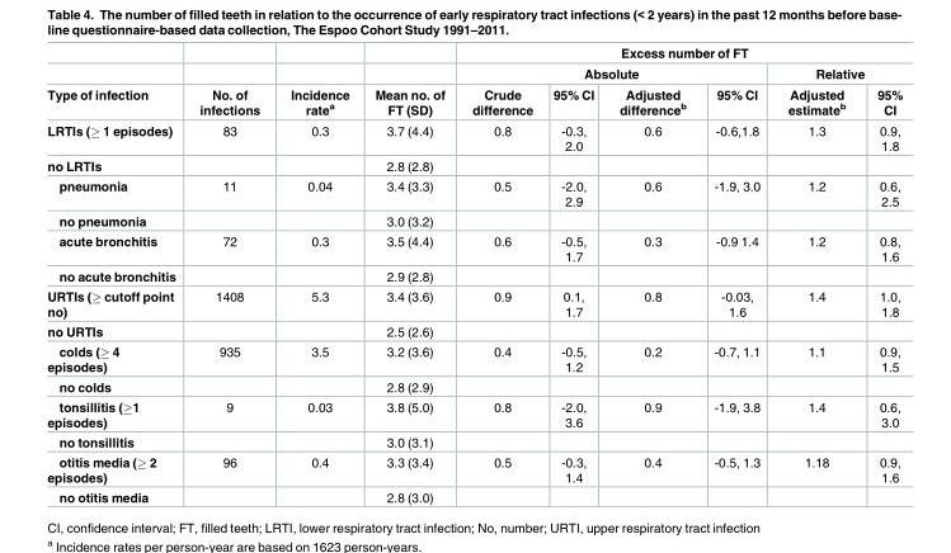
<table><thead><tr><td rowspan="3">Type of infection</td><td rowspan="3">No. of infections</td><td rowspan="3">Incidence rate<sup>a</sup></td><td rowspan="3">Mean no. of FT (SD)</td><td colspan="6">Excess number of FT</td></tr><tr><td colspan="4">Absolute</td><td colspan="2">Relative</td></tr><tr><td>Crude difference</td><td>95% CI</td><td>Adjusted difference<sup>b</sup></td><td>95% CI</td><td>Adjusted estimate<sup>b</sup></td><td>95% CI</td></tr></thead><tbody><tr><td>LRTIs (≥ 1 episodes)</td><td>83</td><td>0.3</td><td>3.7 (4.4)</td><td>0.8</td><td>-0.3, 2.0</td><td>0.6</td><td>-0.6,1.8</td><td>1.3</td><td>0.9, 1.8</td></tr><tr><td>no LRTIs</td><td></td><td></td><td>2.8 (2.8)</td><td></td><td></td><td></td><td></td><td></td><td></td></tr><tr><td>pneumonia</td><td>11</td><td>0.04</td><td>3.4 (3.3)</td><td>0.5</td><td>-2.0, 2.9</td><td>0.6</td><td>-1.9, 3.0</td><td>1.2</td><td>0.6, 2.5</td></tr><tr><td>no pneumonia</td><td></td><td></td><td>3.0 (3.2)</td><td></td><td></td><td></td><td></td><td></td><td></td></tr><tr><td>acute bronchitis</td><td>72</td><td>0.3</td><td>3.5 (4.4)</td><td>0.6</td><td>-0.5, 1.7</td><td>0.3</td><td>-0.9 1.4</td><td>1.2</td><td>0.8, 1.6</td></tr><tr><td>no acute bronchitis</td><td></td><td></td><td>2.9 (2.8)</td><td></td><td></td><td></td><td></td><td></td><td></td></tr><tr><td>URTIs (≥ cutoff point no)</td><td>1408</td><td>5.3</td><td>3.4 (3.6)</td><td>0.9</td><td>0.1, 1.7</td><td>0.8</td><td>-0.03, 1.6</td><td>1.4</td><td>1.0, 1.8</td></tr><tr><td>no URTIs</td><td></td><td></td><td>2.5 (2.6)</td><td></td><td></td><td></td><td></td><td></td><td></td></tr><tr><td>colds (≥ 4 episodes)</td><td>935</td><td>3.5</td><td>3.2 (3.6)</td><td>0.4</td><td>-0.5, 1.2</td><td>0.2</td><td>-0.7, 1.1</td><td>1.1</td><td>0.9, 1.5</td></tr><tr><td>no colds</td><td></td><td></td><td>2.8 (2.9)</td><td></td><td></td><td></td><td></td><td></td><td></td></tr><tr><td>tonsillitis (≥1 episodes)</td><td>9</td><td>0.03</td><td>3.8 (5.0)</td><td>0.8</td><td>-2.0, 3.6</td><td>0.9</td><td>-1.9, 3.8</td><td>1.4</td><td>0.6, 3.0</td></tr><tr><td>no tonsillitis</td><td></td><td></td><td>3.0 (3.1)</td><td></td><td></td><td></td><td></td><td></td><td></td></tr><tr><td>otitis media (≥ 2 episodes)</td><td>96</td><td>0.4</td><td>3.3 (3.4)</td><td>0.5</td><td>-0.3, 1.4</td><td>0.4</td><td>-0.5, 1.3</td><td>1.18</td><td>0.9, 1.6</td></tr><tr><td>no otitis media</td><td></td><td></td><td>2.8 (3.0)</td><td></td><td></td><td></td><td></td><td></td><td></td></tr></tbody></table>